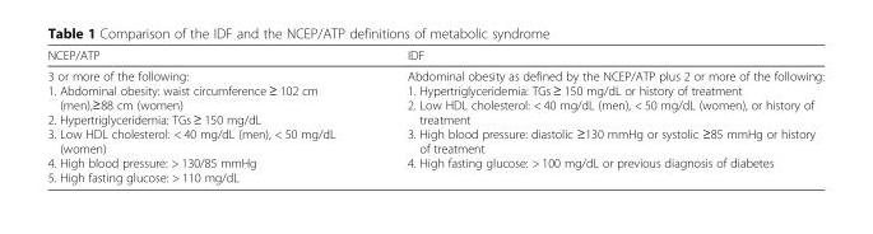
<table><thead><tr><td>NCEP/ATP</td><td>IDF</td></tr></thead><tbody><tr><td>3 or more of the following: 1. Abdominal obesity: waist circumference ≥ 102 cm (men),≥88 cm (women) 2. Hypertriglyceridemia: TGs ≥ 150 mg/dL 3. Low HDL cholesterol: &lt; 40 mg/dL (men), &lt; 50 mg/dL (women) 4. High blood pressure: &gt; 130/85 mmHg 5. High fasting glucose: &gt; 110 mg/dL</td><td>Abdominal obesity as defined by the NCEP/ATP plus 2 or more of the following: 1. Hypertriglyceridemia: TGs ≥ 150 mg/dL or history of treatment 2. Low HDL cholesterol: &lt; 40 mg/dL (men), &lt; 50 mg/dL (women), or history of treatment 3. High blood pressure: diastolic ≥130 mmHg or systolic ≥85 mmHg or history of treatment 4. High fasting glucose: &gt; 100 mg/dL or previous diagnosis of diabetes</td></tr></tbody></table>